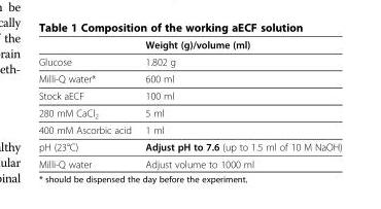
<table><thead><tr><td></td><td>Weight (g)/volume (ml)</td></tr></thead><tbody><tr><td>Glucose</td><td>1.802 g</td></tr><tr><td>Milli-Q water*</td><td>600 ml</td></tr><tr><td>Stock aECF</td><td>100 ml</td></tr><tr><td>280 mM CaCl<sub>2</sub></td><td>5 ml</td></tr><tr><td>400 mM Ascorbic acid</td><td>1 ml</td></tr><tr><td>pH (23°C)</td><td>Adjust pH to 7.6 (up to 1.5 ml of 10 M NaOH)</td></tr><tr><td>Milli-Q water</td><td>Adjust volume to 1000 ml</td></tr></tbody></table>